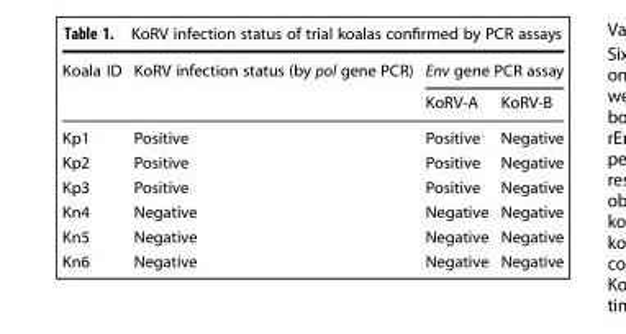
<table><thead><tr><td rowspan="2">Koala ID</td><td rowspan="2">KoRV infection status (by pol gene PCR)</td><td colspan="2">Env gene PCR assay</td></tr><tr><td>KoRV-A</td><td>KoRV-B</td></tr></thead><tbody><tr><td>Kp1</td><td>Positive</td><td>Positive</td><td>Negative</td></tr><tr><td>Kp2</td><td>Positive</td><td>Positive</td><td>Negative</td></tr><tr><td>Kp3</td><td>Positive</td><td>Positive</td><td>Negative</td></tr><tr><td>Kn4</td><td>Negative</td><td>Negative</td><td>Negative</td></tr><tr><td>Kn5</td><td>Negative</td><td>Negative</td><td>Negative</td></tr><tr><td>Kn6</td><td>Negative</td><td>Negative</td><td>Negative</td></tr></tbody></table>